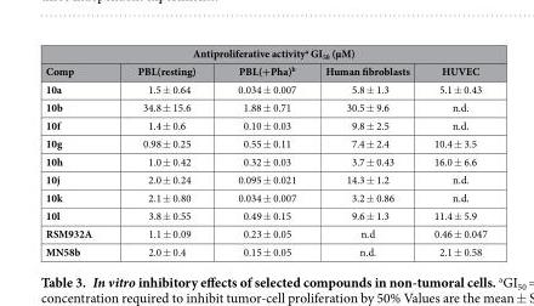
<table><thead><tr><td colspan="5">Antiproliferative activity<sup>a</sup> GI<sub>50</sub> (μM)</td></tr><tr><td>Comp</td><td>PBL(resting)</td><td>PBL(+Pha)<sup>b</sup></td><td>Human fibroblasts</td><td>HUVEC</td></tr></thead><tbody><tr><td>10a</td><td>1.5 ± 0.64</td><td>0.034 ± 0.007</td><td>5.8 ± 1.3</td><td>5.1 ± 0.43</td></tr><tr><td>10b</td><td>34.8 ± 15.6</td><td>1.88 ± 0.71</td><td>30.5 ± 9.6</td><td>n.d.</td></tr><tr><td>10f</td><td>1.4 ± 0.6</td><td>0.10 ± 0.03</td><td>9.8 ± 2.5</td><td>n.d.</td></tr><tr><td>10g</td><td>0.98 ± 0.25</td><td>0.55 ± 0.11</td><td>7.4 ± 2.4</td><td>10.4 ± 3.5</td></tr><tr><td>10h</td><td>1.0 ± 0.42</td><td>0.32 ± 0.03</td><td>3.7 ± 0.43</td><td>16.0 ± 6.6</td></tr><tr><td>10j</td><td>2.0 ± 0.24</td><td>0.095 ± 0.021</td><td>14.3 ± 1.2</td><td>n.d.</td></tr><tr><td>10k</td><td>2.1 ± 0.80</td><td>0.034 ± 0.007</td><td>3.2 ± 0.86</td><td>n.d.</td></tr><tr><td>10l</td><td>3.8 ± 0.55</td><td>0.49 ± 0.15</td><td>9.6 ± 1.3</td><td>11.4 ± 5.9</td></tr><tr><td>RSM932A</td><td>1.1 ± 0.09</td><td>0.23 ± 0.05</td><td>n.d</td><td>0.46 ± 0.047</td></tr><tr><td>MN58b</td><td>2.0 ± 0.4</td><td>0.15 ± 0.05</td><td>n.d.</td><td>2.1 ± 0.58</td></tr></tbody></table>